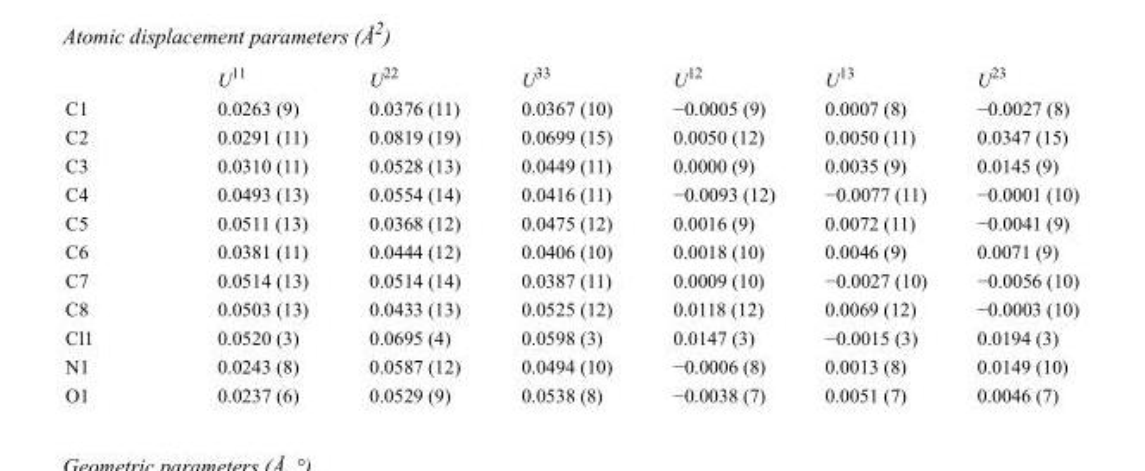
<table><thead><tr><td></td><td>U<sup>11</sup></td><td>U<sup>22</sup></td><td>U<sup>33</sup></td><td>U<sup>12</sup></td><td>U<sup>13</sup></td><td>U<sup>23</sup></td></tr></thead><tbody><tr><td>C1</td><td>0.0263 (9)</td><td>0.0376 (11)</td><td>0.0367 (10)</td><td>−0.0005 (9)</td><td>0.0007 (8)</td><td>−0.0027 (8)</td></tr><tr><td>C2</td><td>0.0291 (11)</td><td>0.0819 (19)</td><td>0.0699 (15)</td><td>0.0050 (12)</td><td>0.0050 (11)</td><td>0.0347 (15)</td></tr><tr><td>C3</td><td>0.0310 (11)</td><td>0.0528 (13)</td><td>0.0449 (11)</td><td>0.0000 (9)</td><td>0.0035 (9)</td><td>0.0145 (9)</td></tr><tr><td>C4</td><td>0.0493 (13)</td><td>0.0554 (14)</td><td>0.0416 (11)</td><td>−0.0093 (12)</td><td>−0.0077 (11)</td><td>−0.0001 (10)</td></tr><tr><td>C5</td><td>0.0511 (13)</td><td>0.0368 (12)</td><td>0.0475 (12)</td><td>0.0016 (9)</td><td>0.0072 (11)</td><td>−0.0041 (9)</td></tr><tr><td>C6</td><td>0.0381 (11)</td><td>0.0444 (12)</td><td>0.0406 (10)</td><td>0.0018 (10)</td><td>0.0046 (9)</td><td>0.0071 (9)</td></tr><tr><td>C7</td><td>0.0514 (13)</td><td>0.0514 (14)</td><td>0.0387 (11)</td><td>0.0009 (10)</td><td>−0.0027 (10)</td><td>−0.0056 (10)</td></tr><tr><td>C8</td><td>0.0503 (13)</td><td>0.0433 (13)</td><td>0.0525 (12)</td><td>0.0118 (12)</td><td>0.0069 (12)</td><td>−0.0003 (10)</td></tr><tr><td>Cl1</td><td>0.0520 (3)</td><td>0.0695 (4)</td><td>0.0598 (3)</td><td>0.0147 (3)</td><td>−0.0015 (3)</td><td>0.0194 (3)</td></tr><tr><td>N1</td><td>0.0243 (8)</td><td>0.0587 (12)</td><td>0.0494 (10)</td><td>−0.0006 (8)</td><td>0.0013 (8)</td><td>0.0149 (10)</td></tr><tr><td>O1</td><td>0.0237 (6)</td><td>0.0529 (9)</td><td>0.0538 (8)</td><td>−0.0038 (7)</td><td>0.0051 (7)</td><td>0.0046 (7)</td></tr></tbody></table>